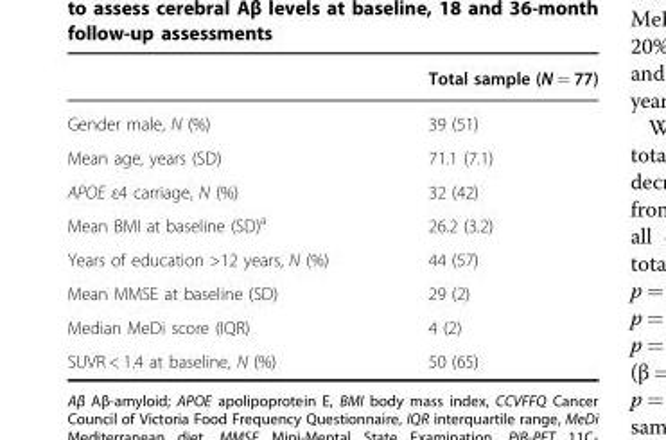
<table><thead><tr><td></td><td>Total sample (N = 77)</td></tr></thead><tbody><tr><td>Gender male, N (%)</td><td>39 (51)</td></tr><tr><td>Mean age, years (SD)</td><td>71.1 (7.1)</td></tr><tr><td>APOE ε4 carriage, N (%)</td><td>32 (42)</td></tr><tr><td>Mean BMI at baseline (SD)<sup>a</sup></td><td>26.2 (3.2)</td></tr><tr><td>Years of education &gt;12 years, N (%)</td><td>44 (57)</td></tr><tr><td>Mean MMSE at baseline (SD)</td><td>29 (2)</td></tr><tr><td>Median MeDi score (IQR)</td><td>4 (2)</td></tr><tr><td>SUVR &lt; 1.4 at baseline, N (%)</td><td>50 (65)</td></tr></tbody></table>